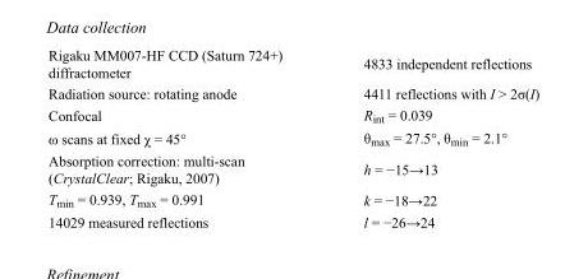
<table><tbody><tr><td>Rigaku MM007-HF CCD (Saturn 724+) diffractometer</td><td>4833 independent reflections</td></tr><tr><td>Radiation source: rotating anode</td><td>4411 reflections with I &gt; 2σ(I)</td></tr><tr><td>Confocal</td><td>R<sub>int</sub> = 0.039</td></tr><tr><td>ω scans at fixed χ = 45°</td><td>θ<sub>max</sub> = 27.5°, θ<sub>min</sub> = 2.1°</td></tr><tr><td>Absorption correction: multi-scan (CrystalClear; Rigaku, 2007)</td><td>h = −15→13</td></tr><tr><td>T<sub>min</sub> = 0.939, T<sub>max</sub> = 0.991</td><td>k = −18→22</td></tr><tr><td>14029 measured reflections</td><td>l = −26→24</td></tr></tbody></table>